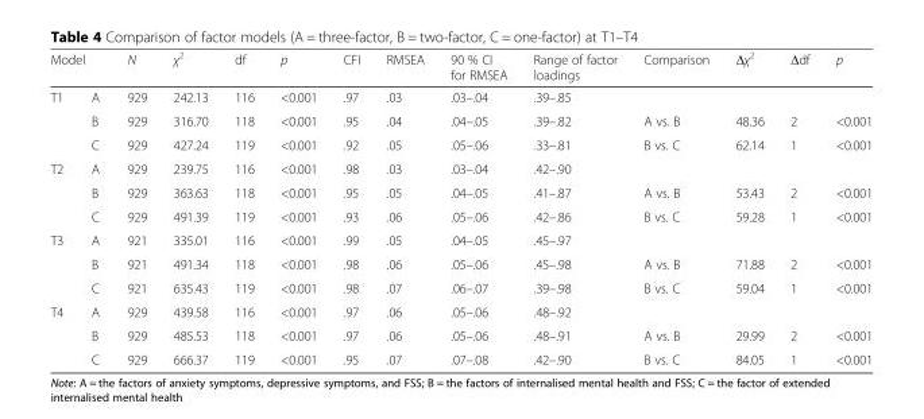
<table><thead><tr><td colspan="2">Model</td><td rowspan="2">N 929</td><td rowspan="2">χ<sup>2</sup> 242.13</td><td rowspan="2">df 116</td><td rowspan="2">p &lt;0.001</td><td rowspan="2">CFI .97</td><td rowspan="2">RMSEA .03</td><td rowspan="2">90 % CI for RMSEA .03–.04</td><td rowspan="2">Range of factor loadings .39–.85</td><td rowspan="2">Comparison</td><td rowspan="2">Δχ2</td><td rowspan="2">Δdf</td><td rowspan="2">p</td></tr><tr><td>T1</td><td>A</td></tr></thead><tbody><tr><td></td><td>B</td><td>929</td><td>316.70</td><td>118</td><td>&lt;0.001</td><td>.95</td><td>.04</td><td>.04–.05</td><td>.39–.82</td><td>A vs. B</td><td>48.36</td><td>2</td><td>&lt;0.001</td></tr><tr><td></td><td>C</td><td>929</td><td>427.24</td><td>119</td><td>&lt;0.001</td><td>.92</td><td>.05</td><td>.05–.06</td><td>.33–.81</td><td>B vs. C</td><td>62.14</td><td>1</td><td>&lt;0.001</td></tr><tr><td rowspan="3">T2</td><td>A</td><td>929</td><td>239.75</td><td>116</td><td>&lt;0.001</td><td>.98</td><td>.03</td><td>.03–.04</td><td>.42–.90</td><td></td><td></td><td></td><td></td></tr><tr><td>B</td><td>929</td><td>363.63</td><td>118</td><td>&lt;0.001</td><td>.95</td><td>.05</td><td>.04–.05</td><td>.41–.87</td><td>A vs. B</td><td>53.43</td><td>2</td><td>&lt;0.001</td></tr><tr><td>C</td><td>929</td><td>491.39</td><td>119</td><td>&lt;0.001</td><td>.93</td><td>.06</td><td>.05–.06</td><td>.42–.86</td><td>B vs. C</td><td>59.28</td><td>1</td><td>&lt;0.001</td></tr><tr><td rowspan="3">T3</td><td>A</td><td>921</td><td>335.01</td><td>116</td><td>&lt;0.001</td><td>.99</td><td>.05</td><td>.04–.05</td><td>.45–.97</td><td></td><td></td><td></td><td></td></tr><tr><td>B</td><td>921</td><td>491.34</td><td>118</td><td>&lt;0.001</td><td>.98</td><td>.06</td><td>.05–.06</td><td>.45–.98</td><td>A vs. B</td><td>71.88</td><td>2</td><td>&lt;0.001</td></tr><tr><td>C</td><td>921</td><td>635.43</td><td>119</td><td>&lt;0.001</td><td>.98</td><td>.07</td><td>.06–.07</td><td>.39–.98</td><td>B vs. C</td><td>59.04</td><td>1</td><td>&lt;0.001</td></tr><tr><td rowspan="3">T4</td><td>A</td><td>929</td><td>439.58</td><td>116</td><td>&lt;0.001</td><td>.97</td><td>.06</td><td>.05–.06</td><td>.48–.92</td><td></td><td></td><td></td><td></td></tr><tr><td>B</td><td>929</td><td>485.53</td><td>118</td><td>&lt;0.001</td><td>.97</td><td>.06</td><td>.05–.06</td><td>.48–.91</td><td>A vs. B</td><td>29.99</td><td>2</td><td>&lt;0.001</td></tr><tr><td>C</td><td>929</td><td>666.37</td><td>119</td><td>&lt;0.001</td><td>.95</td><td>.07</td><td>.07–.08</td><td>.42–.90</td><td>B vs. C</td><td>84.05</td><td>1</td><td>&lt;0.001</td></tr></tbody></table>